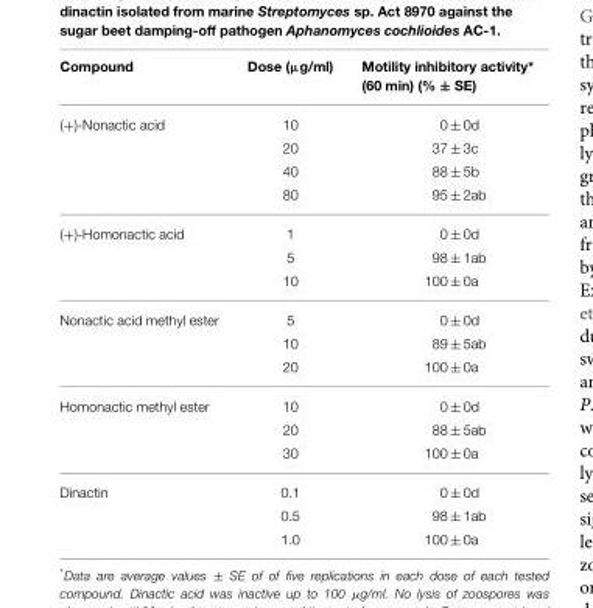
<table><thead><tr><td>Compound</td><td>Dose (µg/ml)</td><td>Motility inhibitory activity* (60 min) (% ± SE)</td></tr></thead><tbody><tr><td rowspan="4">(+)-Nonactic acid</td><td>10</td><td>0 ± 0d</td></tr><tr><td>20</td><td>37 ± 3c</td></tr><tr><td>40</td><td>88 ± 5b</td></tr><tr><td>80</td><td>95 ± 2ab</td></tr><tr><td rowspan="3">(+)-Homonactic acid</td><td>1</td><td>0 ± 0d</td></tr><tr><td>5</td><td>98 ± 1ab</td></tr><tr><td>10</td><td>100 ± 0a</td></tr><tr><td rowspan="3">Nonactic acid methyl ester</td><td>5</td><td>0 ± 0d</td></tr><tr><td>10</td><td>89 ± 5ab</td></tr><tr><td>20</td><td>100 ± 0a</td></tr><tr><td rowspan="3">Homonactic methyl ester</td><td>10</td><td>0 ± 0d</td></tr><tr><td>20</td><td>88 ± 5ab</td></tr><tr><td>30</td><td>100 ± 0a</td></tr><tr><td rowspan="3">Dinactin</td><td>0.1</td><td>0 ± 0d</td></tr><tr><td>0.5</td><td>98 ± 1ab</td></tr><tr><td>1.0</td><td>100 ± 0a</td></tr></tbody></table>